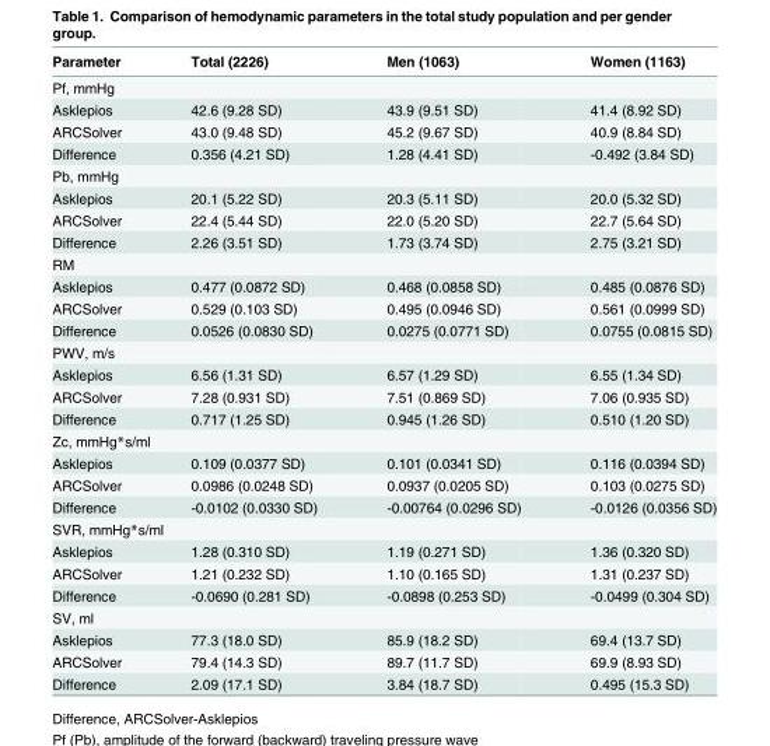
<table><thead><tr><td>Parameter</td><td>Total (2226)</td><td>Men (1063)</td><td>Women (1163)</td></tr></thead><tbody><tr><td colspan="4">Pf, mmHg</td></tr><tr><td>Asklepios</td><td>42.6 (9.28 SD)</td><td>43.9 (9.51 SD)</td><td>41.4 (8.92 SD)</td></tr><tr><td>ARCSolver</td><td>43.0 (9.48 SD)</td><td>45.2 (9.67 SD)</td><td>40.9 (8.84 SD)</td></tr><tr><td>Difference</td><td>0.356 (4.21 SD)</td><td>1.28 (4.41 SD)</td><td>-0.492 (3.84 SD)</td></tr><tr><td colspan="4">Pb, mmHg</td></tr><tr><td>Asklepios</td><td>20.1 (5.22 SD)</td><td>20.3 (5.11 SD)</td><td>20.0 (5.32 SD)</td></tr><tr><td>ARCSolver</td><td>22.4 (5.44 SD)</td><td>22.0 (5.20 SD)</td><td>22.7 (5.64 SD)</td></tr><tr><td>Difference</td><td>2.26 (3.51 SD)</td><td>1.73 (3.74 SD)</td><td>2.75 (3.21 SD)</td></tr><tr><td colspan="4">RM</td></tr><tr><td>Asklepios</td><td>0.477 (0.0872 SD)</td><td>0.468 (0.0858 SD)</td><td>0.485 (0.0876 SD)</td></tr><tr><td>ARCSolver</td><td>0.529 (0.103 SD)</td><td>0.495 (0.0946 SD)</td><td>0.561 (0.0999 SD)</td></tr><tr><td>Difference</td><td>0.0526 (0.0830 SD)</td><td>0.0275 (0.0771 SD)</td><td>0.0755 (0.0815 SD)</td></tr><tr><td colspan="4">PWV, m/s</td></tr><tr><td>Asklepios</td><td>6.56 (1.31 SD)</td><td>6.57 (1.29 SD)</td><td>6.55 (1.34 SD)</td></tr><tr><td>ARCSolver</td><td>7.28 (0.931 SD)</td><td>7.51 (0.869 SD)</td><td>7.06 (0.935 SD)</td></tr><tr><td>Difference</td><td>0.717 (1.25 SD)</td><td>0.945 (1.26 SD)</td><td>0.510 (1.20 SD)</td></tr><tr><td colspan="4">Zc, mmHg*s/ml</td></tr><tr><td>Asklepios</td><td>0.109 (0.0377 SD)</td><td>0.101 (0.0341 SD)</td><td>0.116 (0.0394 SD)</td></tr><tr><td>ARCSolver</td><td>0.0986 (0.0248 SD)</td><td>0.0937 (0.0205 SD)</td><td>0.103 (0.0275 SD)</td></tr><tr><td>Difference</td><td>-0.0102 (0.0330 SD)</td><td>-0.00764 (0.0296 SD)</td><td>-0.0126 (0.0356 SD)</td></tr><tr><td colspan="4">SVR, mmHg*s/ml</td></tr><tr><td>Asklepios</td><td>1.28 (0.310 SD)</td><td>1.19 (0.271 SD)</td><td>1.36 (0.320 SD)</td></tr><tr><td>ARCSolver</td><td>1.21 (0.232 SD)</td><td>1.10 (0.165 SD)</td><td>1.31 (0.237 SD)</td></tr><tr><td>Difference</td><td>-0.0690 (0.281 SD)</td><td>-0.0898 (0.253 SD)</td><td>-0.0499 (0.304 SD)</td></tr><tr><td colspan="4">SV, ml</td></tr><tr><td>Asklepios</td><td>77.3 (18.0 SD)</td><td>85.9 (18.2 SD)</td><td>69.4 (13.7 SD)</td></tr><tr><td>ARCSolver</td><td>79.4 (14.3 SD)</td><td>89.7 (11.7 SD)</td><td>69.9 (8.93 SD)</td></tr><tr><td>Difference</td><td>2.09 (17.1 SD)</td><td>3.84 (18.7 SD)</td><td>0.495 (15.3 SD)</td></tr></tbody></table>